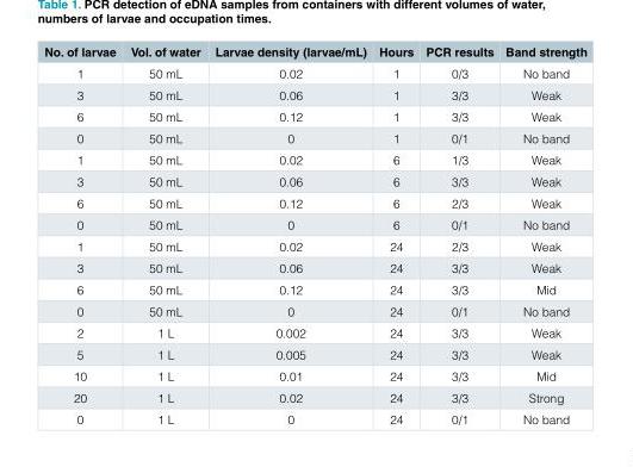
<table><thead><tr><td>No. of larvae</td><td>Vol. of water</td><td>Larvae density (larvae/mL)</td><td>Hours</td><td>PCR results</td><td>Band strength</td></tr></thead><tbody><tr><td>1</td><td>50 mL</td><td>0.02</td><td>1</td><td>0/3</td><td>No band</td></tr><tr><td>3</td><td>50 mL</td><td>0.06</td><td>1</td><td>3/3</td><td>Weak</td></tr><tr><td>6</td><td>50 mL</td><td>0.12</td><td>1</td><td>3/3</td><td>Weak</td></tr><tr><td>0</td><td>50 mL</td><td>0</td><td>1</td><td>0/1</td><td>No band</td></tr><tr><td>1</td><td>50 mL</td><td>0.02</td><td>6</td><td>1/3</td><td>Weak</td></tr><tr><td>3</td><td>50 mL</td><td>0.06</td><td>6</td><td>3/3</td><td>Weak</td></tr><tr><td>6</td><td>50 mL</td><td>0.12</td><td>6</td><td>2/3</td><td>Weak</td></tr><tr><td>0</td><td>50 mL</td><td>0</td><td>6</td><td>0/1</td><td>No band</td></tr><tr><td>1</td><td>50 mL</td><td>0.02</td><td>24</td><td>2/3</td><td>Weak</td></tr><tr><td>3</td><td>50 mL</td><td>0.06</td><td>24</td><td>3/3</td><td>Weak</td></tr><tr><td>6</td><td>50 mL</td><td>0.12</td><td>24</td><td>3/3</td><td>Mid</td></tr><tr><td>0</td><td>50 mL</td><td>0</td><td>24</td><td>0/1</td><td>No band</td></tr><tr><td>2</td><td>1 L</td><td>0.002</td><td>24</td><td>3/3</td><td>Weak</td></tr><tr><td>5</td><td>1 L</td><td>0.005</td><td>24</td><td>3/3</td><td>Weak</td></tr><tr><td>10</td><td>1 L</td><td>0.01</td><td>24</td><td>3/3</td><td>Mid</td></tr><tr><td>20</td><td>1 L</td><td>0.02</td><td>24</td><td>3/3</td><td>Strong</td></tr><tr><td>0</td><td>1 L</td><td>0</td><td>24</td><td>0/1</td><td>No band</td></tr></tbody></table>